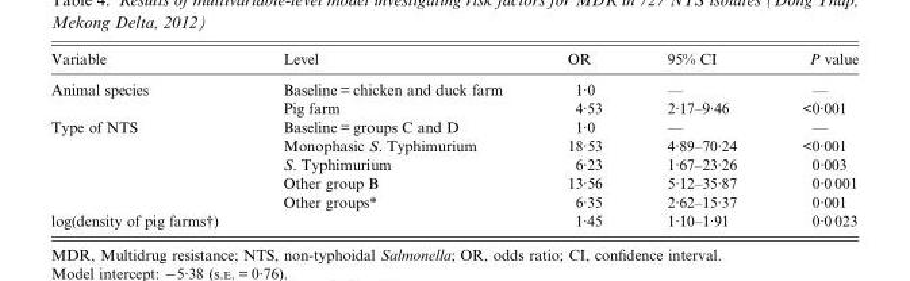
<table><thead><tr><td>Variable</td><td>Level</td><td>OR</td><td>95% CI</td><td>P value</td></tr></thead><tbody><tr><td rowspan="2">Animal species</td><td>Baseline = chicken and duck farm</td><td>1·0</td><td>—</td><td>—</td></tr><tr><td>Pig farm</td><td>4·53</td><td>2·17–9·46</td><td>&lt;0·001</td></tr><tr><td rowspan="5">Type of NTS</td><td>Baseline = groups C and D</td><td>1·0</td><td>—</td><td>—</td></tr><tr><td>Monophasic S. Typhimurium</td><td>18·53</td><td>4·89–70·24</td><td>&lt;0·001</td></tr><tr><td>S. Typhimurium</td><td>6·23</td><td>1·67–23·26</td><td>0·003</td></tr><tr><td>Other group B</td><td>13·56</td><td>5·12–35·87</td><td>0·0 001</td></tr><tr><td>Other groups*</td><td>6·35</td><td>2·62–15·37</td><td>0·001</td></tr><tr><td>log(density of pig farms†)</td><td></td><td>1·45</td><td>1·10–1·91</td><td>0·0 023</td></tr></tbody></table>